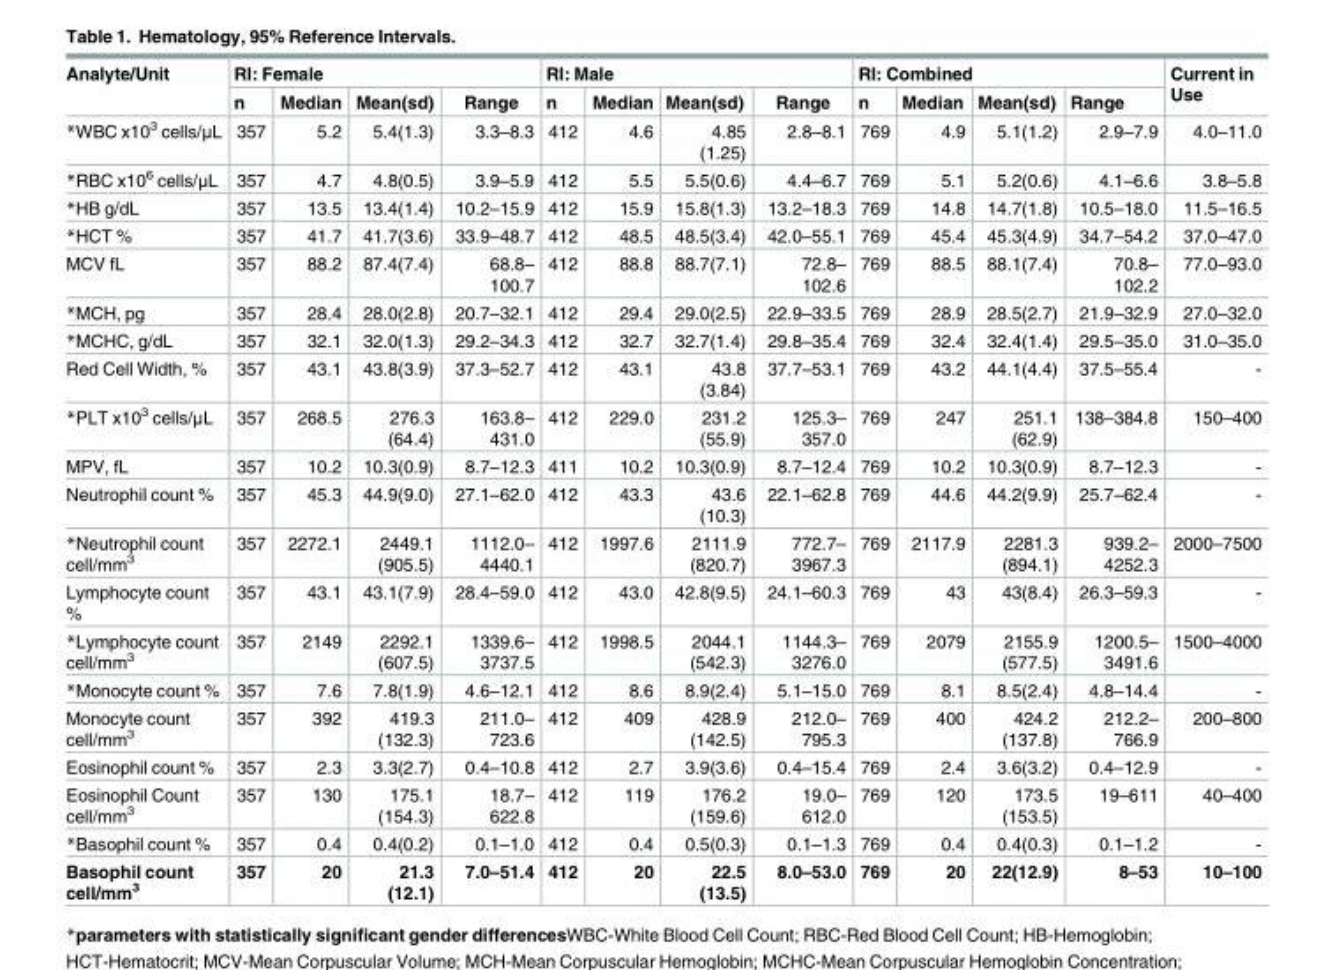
<table><thead><tr><td rowspan="2">Analyte/Unit</td><td colspan="4">RI: Female</td><td colspan="4">RI: Male</td><td colspan="4">RI: Combined</td><td rowspan="2">Current in Use</td></tr><tr><td>n</td><td>Median</td><td>Mean(sd)</td><td>Range</td><td>n</td><td>Median</td><td>Mean(sd)</td><td>Range</td><td>n</td><td>Median</td><td>Mean(sd)</td><td>Range</td></tr></thead><tbody><tr><td>*WBC x10<sup>3</sup> cells/μL</td><td>357</td><td>5.2</td><td>5.4(1.3)</td><td>3.3–8.3</td><td>412</td><td>4.6</td><td>4.85 (1.25)</td><td>2.8–8.1</td><td>769</td><td>4.9</td><td>5.1(1.2)</td><td>2.9–7.9</td><td>4.0–11.0</td></tr><tr><td>*RBC x10<sup>6</sup> cells/μL</td><td>357</td><td>4.7</td><td>4.8(0.5)</td><td>3.9–5.9</td><td>412</td><td>5.5</td><td>5.5(0.6)</td><td>4.4–6.7</td><td>769</td><td>5.1</td><td>5.2(0.6)</td><td>4.1–6.6</td><td>3.8–5.8</td></tr><tr><td>*HB g/dL</td><td>357</td><td>13.5</td><td>13.4(1.4)</td><td>10.2–15.9</td><td>412</td><td>15.9</td><td>15.8(1.3)</td><td>13.2–18.3</td><td>769</td><td>14.8</td><td>14.7(1.8)</td><td>10.5–18.0</td><td>11.5–16.5</td></tr><tr><td>*HCT %</td><td>357</td><td>41.7</td><td>41.7(3.6)</td><td>33.9–48.7</td><td>412</td><td>48.5</td><td>48.5(3.4)</td><td>42.0–55.1</td><td>769</td><td>45.4</td><td>45.3(4.9)</td><td>34.7–54.2</td><td>37.0–47.0</td></tr><tr><td>MCV fL</td><td>357</td><td>88.2</td><td>87.4(7.4)</td><td>68.8– 100.7</td><td>412</td><td>88.8</td><td>88.7(7.1)</td><td>72.8– 102.6</td><td>769</td><td>88.5</td><td>88.1(7.4)</td><td>70.8– 102.2</td><td>77.0–93.0</td></tr><tr><td>*MCH, pg</td><td>357</td><td>28.4</td><td>28.0(2.8)</td><td>20.7–32.1</td><td>412</td><td>29.4</td><td>29.0(2.5)</td><td>22.9–33.5</td><td>769</td><td>28.9</td><td>28.5(2.7)</td><td>21.9–32.9</td><td>27.0–32.0</td></tr><tr><td>*MCHC, g/dL</td><td>357</td><td>32.1</td><td>32.0(1.3)</td><td>29.2–34.3</td><td>412</td><td>32.7</td><td>32.7(1.4)</td><td>29.8–35.4</td><td>769</td><td>32.4</td><td>32.4(1.4)</td><td>29.5–35.0</td><td>31.0–35.0</td></tr><tr><td>Red Cell Width, %</td><td>357</td><td>43.1</td><td>43.8(3.9)</td><td>37.3–52.7</td><td>412</td><td>43.1</td><td>43.8 (3.84)</td><td>37.7–53.1</td><td>769</td><td>43.2</td><td>44.1(4.4)</td><td>37.5–55.4</td><td>-</td></tr><tr><td>*PLT x10<sup>3</sup> cells/μL</td><td>357</td><td>268.5</td><td>276.3 (64.4)</td><td>163.8– 431.0</td><td>412</td><td>229.0</td><td>231.2 (55.9)</td><td>125.3– 357.0</td><td>769</td><td>247</td><td>251.1 (62.9)</td><td>138–384.8</td><td>150–400</td></tr><tr><td>MPV, fL</td><td>357</td><td>10.2</td><td>10.3(0.9)</td><td>8.7–12.3</td><td>411</td><td>10.2</td><td>10.3(0.9)</td><td>8.7–12.4</td><td>769</td><td>10.2</td><td>10.3(0.9)</td><td>8.7–12.3</td><td>-</td></tr><tr><td>Neutrophil count %</td><td>357</td><td>45.3</td><td>44.9(9.0)</td><td>27.1–62.0</td><td>412</td><td>43.3</td><td>43.6 (10.3)</td><td>22.1–62.8</td><td>769</td><td>44.6</td><td>44.2(9.9)</td><td>25.7–62.4</td><td>-</td></tr><tr><td>*Neutrophil count cell/mm<sup>3</sup></td><td>357</td><td>2272.1</td><td>2449.1 (905.5)</td><td>1112.0– 4440.1</td><td>412</td><td>1997.6</td><td>2111.9 (820.7)</td><td>772.7– 3967.3</td><td>769</td><td>2117.9</td><td>2281.3 (894.1)</td><td>939.2– 4252.3</td><td>2000–7500</td></tr><tr><td>Lymphocyte count %</td><td>357</td><td>43.1</td><td>43.1(7.9)</td><td>28.4–59.0</td><td>412</td><td>43.0</td><td>42.8(9.5)</td><td>24.1–60.3</td><td>769</td><td>43</td><td>43(8.4)</td><td>26.3–59.3</td><td>-</td></tr><tr><td>*Lymphocyte count cell/mm<sup>3</sup></td><td>357</td><td>2149</td><td>2292.1 (607.5)</td><td>1339.6– 3737.5</td><td>412</td><td>1998.5</td><td>2044.1 (542.3)</td><td>1144.3– 3276.0</td><td>769</td><td>2079</td><td>2155.9 (577.5)</td><td>1200.5– 3491.6</td><td>1500–4000</td></tr><tr><td>*Monocyte count %</td><td>357</td><td>7.6</td><td>7.8(1.9)</td><td>4.6–12.1</td><td>412</td><td>8.6</td><td>8.9(2.4)</td><td>5.1–15.0</td><td>769</td><td>8.1</td><td>8.5(2.4)</td><td>4.8–14.4</td><td>-</td></tr><tr><td>Monocyte count cell/mm<sup>3</sup></td><td>357</td><td>392</td><td>419.3 (132.3)</td><td>211.0– 723.6</td><td>412</td><td>409</td><td>428.9 (142.5)</td><td>212.0– 795.3</td><td>769</td><td>400</td><td>424.2 (137.8)</td><td>212.2– 766.9</td><td>200–800</td></tr><tr><td>Eosinophil count %</td><td>357</td><td>2.3</td><td>3.3(2.7)</td><td>0.4–10.8</td><td>412</td><td>2.7</td><td>3.9(3.6)</td><td>0.4–15.4</td><td>769</td><td>2.4</td><td>3.6(3.2)</td><td>0.4–12.9</td><td>-</td></tr><tr><td>Eosinophil Count cell/mm<sup>3</sup></td><td>357</td><td>130</td><td>175.1 (154.3)</td><td>18.7– 622.8</td><td>412</td><td>119</td><td>176.2 (159.6)</td><td>19.0– 612.0</td><td>769</td><td>120</td><td>173.5 (153.5)</td><td>19–611</td><td>40–400</td></tr><tr><td>*Basophil count %</td><td>357</td><td>0.4</td><td>0.4(0.2)</td><td>0.1–1.0</td><td>412</td><td>0.4</td><td>0.5(0.3)</td><td>0.1–1.3</td><td>769</td><td>0.4</td><td>0.4(0.3)</td><td>0.1–1.2</td><td>-</td></tr><tr><td>Basophil count cell/mm<sup>3</sup></td><td>357</td><td>20</td><td>21.3 (12.1)</td><td>7.0–51.4</td><td>412</td><td>20</td><td>22.5 (13.5)</td><td>8.0–53.0</td><td>769</td><td>20</td><td>22(12.9)</td><td>8–53</td><td>10–100</td></tr></tbody></table>